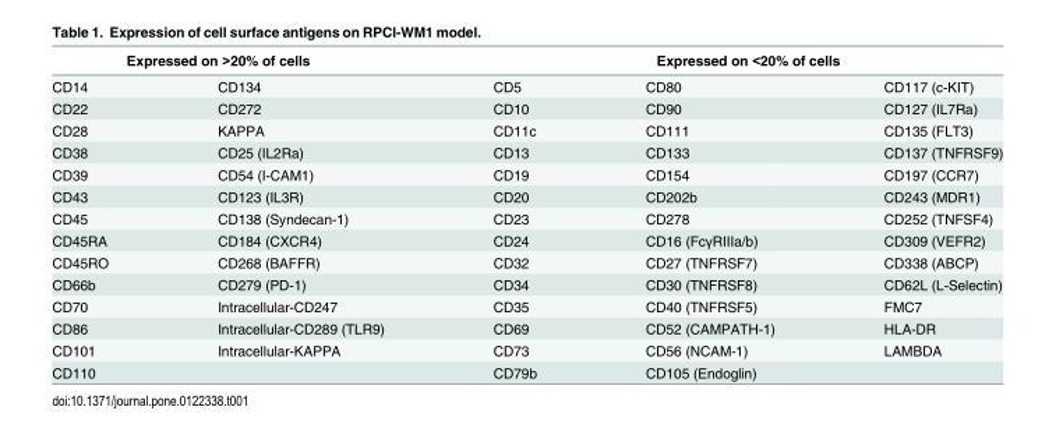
<table><thead><tr><td colspan="2">Expressed on &gt;20% of cells</td><td colspan="3">Expressed on &lt;20% of cells</td></tr><tr><td>CD14</td><td>CD134</td><td>CD5</td><td>CD80</td><td>CD117 (c-KIT)</td></tr></thead><tbody><tr><td>CD22</td><td>CD272</td><td>CD10</td><td>CD90</td><td>CD127 (IL7Ra)</td></tr><tr><td>CD28</td><td>KAPPA</td><td>CD11c</td><td>CD111</td><td>CD135 (FLT3)</td></tr><tr><td>CD38</td><td>CD25 (IL2Ra)</td><td>CD13</td><td>CD133</td><td>CD137 (TNFRSF9)</td></tr><tr><td>CD39</td><td>CD54 (I-CAM1)</td><td>CD19</td><td>CD154</td><td>CD197 (CCR7)</td></tr><tr><td>CD43</td><td>CD123 (IL3R)</td><td>CD20</td><td>CD202b</td><td>CD243 (MDR1)</td></tr><tr><td>CD45</td><td>CD138 (Syndecan-1)</td><td>CD23</td><td>CD278</td><td>CD252 (TNFSF4)</td></tr><tr><td>CD45RA</td><td>CD184 (CXCR4)</td><td>CD24</td><td>CD16 (FcγRIIIa/b)</td><td>CD309 (VEFR2)</td></tr><tr><td>CD45RO</td><td>CD268 (BAFFR)</td><td>CD32</td><td>CD27 (TNFRSF7)</td><td>CD338 (ABCP)</td></tr><tr><td>CD66b</td><td>CD279 (PD-1)</td><td>CD34</td><td>CD30 (TNFRSF8)</td><td>CD62L (L-Selectin)</td></tr><tr><td>CD70</td><td>Intracellular-CD247</td><td>CD35</td><td>CD40 (TNFRSF5)</td><td>FMC7</td></tr><tr><td>CD86</td><td>Intracellular-CD289 (TLR9)</td><td>CD69</td><td>CD52 (CAMPATH-1)</td><td>HLA-DR</td></tr><tr><td>CD101</td><td>Intracellular-KAPPA</td><td>CD73</td><td>CD56 (NCAM-1)</td><td>LAMBDA</td></tr><tr><td>CD110</td><td></td><td>CD79b</td><td>CD105 (Endoglin)</td><td></td></tr></tbody></table>